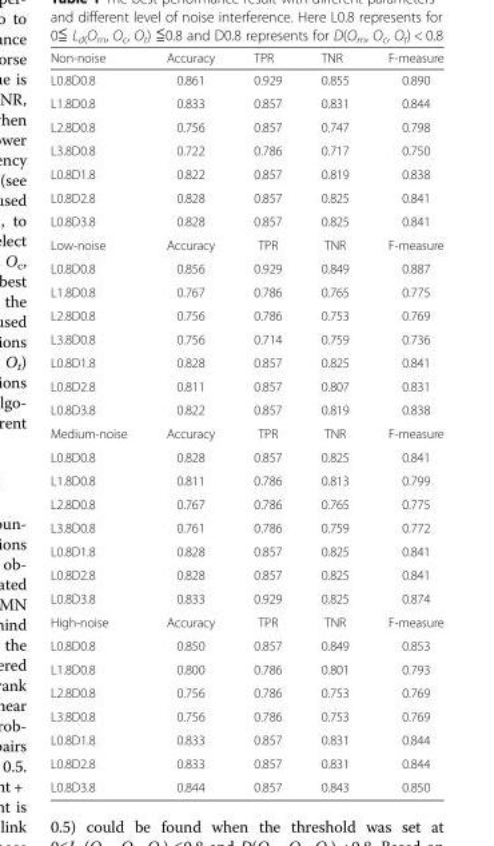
<table><thead><tr><td>Non-noise</td><td>Accuracy</td><td>TPR</td><td>TNR</td><td>F-measure</td></tr></thead><tbody><tr><td>L0.8D0.8</td><td>0.861</td><td>0.929</td><td>0.855</td><td>0.890</td></tr><tr><td>L1.8D0.8</td><td>0.833</td><td>0.857</td><td>0.831</td><td>0.844</td></tr><tr><td>L2.8D0.8</td><td>0.756</td><td>0.857</td><td>0.747</td><td>0.798</td></tr><tr><td>L3.8D0.8</td><td>0.722</td><td>0.786</td><td>0.717</td><td>0.750</td></tr><tr><td>L0.8D1.8</td><td>0.822</td><td>0.857</td><td>0.819</td><td>0.838</td></tr><tr><td>L0.8D2.8</td><td>0.828</td><td>0.857</td><td>0.825</td><td>0.841</td></tr><tr><td>L0.8D3.8</td><td>0.828</td><td>0.857</td><td>0.825</td><td>0.841</td></tr><tr><td>Low-noise</td><td>Accuracy</td><td>TPR</td><td>TNR</td><td>F-measure</td></tr><tr><td>L0.8D0.8</td><td>0.856</td><td>0.929</td><td>0.849</td><td>0.887</td></tr><tr><td>L1.8D0.8</td><td>0.767</td><td>0.786</td><td>0.765</td><td>0.775</td></tr><tr><td>L2.8D0.8</td><td>0.756</td><td>0.786</td><td>0.753</td><td>0.769</td></tr><tr><td>L3.8D0.8</td><td>0.756</td><td>0.714</td><td>0.759</td><td>0.736</td></tr><tr><td>L0.8D1.8</td><td>0.828</td><td>0.857</td><td>0.825</td><td>0.841</td></tr><tr><td>L0.8D2.8</td><td>0.811</td><td>0.857</td><td>0.807</td><td>0.831</td></tr><tr><td>L0.8D3.8</td><td>0.822</td><td>0.857</td><td>0.819</td><td>0.838</td></tr><tr><td>Medium-noise</td><td>Accuracy</td><td>TPR</td><td>TNR</td><td>F-measure</td></tr><tr><td>L0.8D0.8</td><td>0.828</td><td>0.857</td><td>0.825</td><td>0.841</td></tr><tr><td>L1.8D0.8</td><td>0.811</td><td>0.786</td><td>0.813</td><td>0.799</td></tr><tr><td>L2.8D0.8</td><td>0.767</td><td>0.786</td><td>0.765</td><td>0.775</td></tr><tr><td>L3.8D0.8</td><td>0.761</td><td>0.786</td><td>0.759</td><td>0.772</td></tr><tr><td>L0.8D1.8</td><td>0.828</td><td>0.857</td><td>0.825</td><td>0.841</td></tr><tr><td>L0.8D2.8</td><td>0.828</td><td>0.857</td><td>0.825</td><td>0.841</td></tr><tr><td>L0.8D3.8</td><td>0.833</td><td>0.929</td><td>0.825</td><td>0.874</td></tr><tr><td>High-noise</td><td>Accuracy</td><td>TPR</td><td>TNR</td><td>F-measure</td></tr><tr><td>L0.8D0.8</td><td>0.850</td><td>0.857</td><td>0.849</td><td>0.853</td></tr><tr><td>L1.8D0.8</td><td>0.800</td><td>0.786</td><td>0.801</td><td>0.793</td></tr><tr><td>L2.8D0.8</td><td>0.756</td><td>0.786</td><td>0.753</td><td>0.769</td></tr><tr><td>L3.8D0.8</td><td>0.756</td><td>0.786</td><td>0.753</td><td>0.769</td></tr><tr><td>L0.8D1.8</td><td>0.833</td><td>0.857</td><td>0.831</td><td>0.844</td></tr><tr><td>L0.8D2.8</td><td>0.833</td><td>0.857</td><td>0.831</td><td>0.844</td></tr><tr><td>L0.8D3.8</td><td>0.844</td><td>0.857</td><td>0.843</td><td>0.850</td></tr></tbody></table>